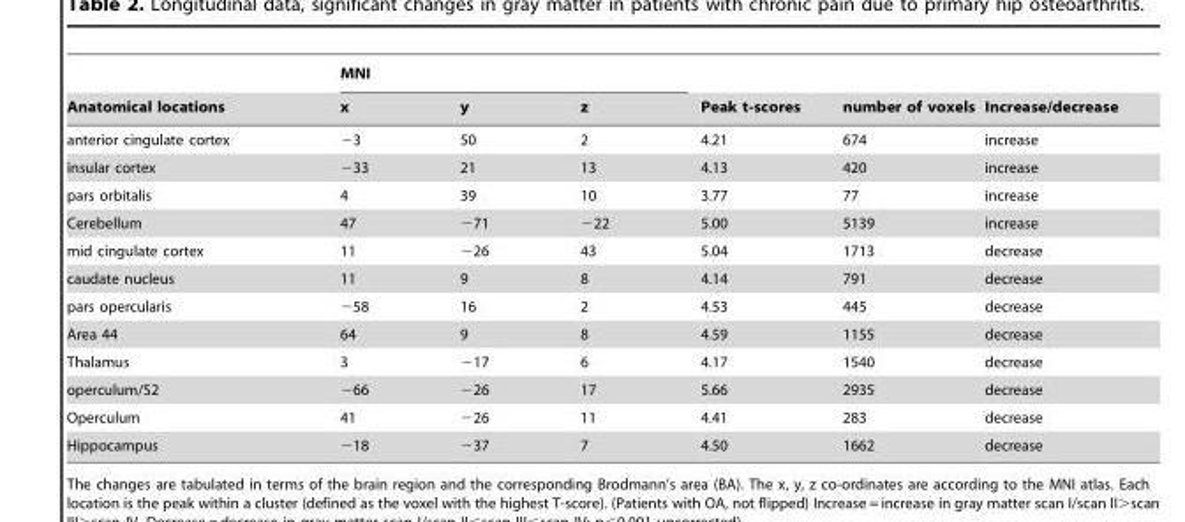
<table><thead><tr><td rowspan="2">Anatomical locations</td><td colspan="3">MNI</td><td rowspan="2">Peak t-scores</td><td rowspan="2">number of voxels</td><td rowspan="2">Increase/decrease</td></tr><tr><td>x</td><td>y</td><td>z</td></tr></thead><tbody><tr><td>anterior cingulate cortex</td><td>−3</td><td>50</td><td>2</td><td>4.21</td><td>674</td><td>increase</td></tr><tr><td>insular cortex</td><td>−33</td><td>21</td><td>13</td><td>4.13</td><td>420</td><td>increase</td></tr><tr><td>pars orbitalis</td><td>4</td><td>39</td><td>10</td><td>3.77</td><td>77</td><td>increase</td></tr><tr><td>Cerebellum</td><td>47</td><td>−71</td><td>−22</td><td>5.00</td><td>5139</td><td>increase</td></tr><tr><td>mid cingulate cortex</td><td>11</td><td>−26</td><td>43</td><td>5.04</td><td>1713</td><td>decrease</td></tr><tr><td>caudate nucleus</td><td>11</td><td>9</td><td>8</td><td>4.14</td><td>791</td><td>decrease</td></tr><tr><td>pars opercularis</td><td>−58</td><td>16</td><td>2</td><td>4.53</td><td>445</td><td>decrease</td></tr><tr><td>Area 44</td><td>64</td><td>9</td><td>8</td><td>4.59</td><td>1155</td><td>decrease</td></tr><tr><td>Thalamus</td><td>3</td><td>−17</td><td>6</td><td>4.17</td><td>1540</td><td>decrease</td></tr><tr><td>operculum/S2</td><td>−66</td><td>−26</td><td>17</td><td>5.66</td><td>2935</td><td>decrease</td></tr><tr><td>Operculum</td><td>41</td><td>−26</td><td>11</td><td>4.41</td><td>283</td><td>decrease</td></tr><tr><td>Hippocampus</td><td>−18</td><td>−37</td><td>7</td><td>4.50</td><td>1662</td><td>decrease</td></tr></tbody></table>